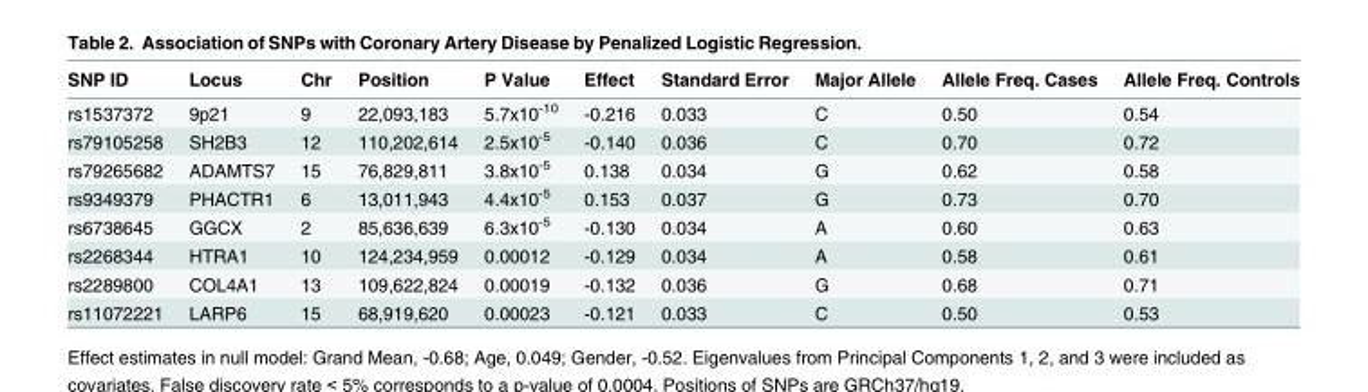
<table><thead><tr><td>SNP ID</td><td>Locus</td><td>Chr</td><td>Position</td><td>P Value</td><td>Effect</td><td>Standard Error</td><td>Major Allele</td><td>Allele Freq. Cases</td><td>Allele Freq. Controls</td></tr></thead><tbody><tr><td>rs1537372</td><td>9p21</td><td>9</td><td>22,093,183</td><td>5.7x10<sup>-10</sup></td><td>-0.216</td><td>0.033</td><td>C</td><td>0.50</td><td>0.54</td></tr><tr><td>rs79105258</td><td>SH2B3</td><td>12</td><td>110,202,614</td><td>2.5x10<sup>-5</sup></td><td>-0.140</td><td>0.036</td><td>C</td><td>0.70</td><td>0.72</td></tr><tr><td>rs79265682</td><td>ADAMTS7</td><td>15</td><td>76,829,811</td><td>3.8x10<sup>-5</sup></td><td>0.138</td><td>0.034</td><td>G</td><td>0.62</td><td>0.58</td></tr><tr><td>rs9349379</td><td>PHACTR1</td><td>6</td><td>13,011,943</td><td>4.4x10<sup>-5</sup></td><td>0.153</td><td>0.037</td><td>G</td><td>0.73</td><td>0.70</td></tr><tr><td>rs6738645</td><td>GGCX</td><td>2</td><td>85,636,639</td><td>6.3x10<sup>-5</sup></td><td>-0.130</td><td>0.034</td><td>A</td><td>0.60</td><td>0.63</td></tr><tr><td>rs2268344</td><td>HTRA1</td><td>10</td><td>124,234,959</td><td>0.00012</td><td>-0.129</td><td>0.034</td><td>A</td><td>0.58</td><td>0.61</td></tr><tr><td>rs2289800</td><td>COL4A1</td><td>13</td><td>109,622,824</td><td>0.00019</td><td>-0.132</td><td>0.036</td><td>G</td><td>0.68</td><td>0.71</td></tr><tr><td>rs11072221</td><td>LARP6</td><td>15</td><td>68,919,620</td><td>0.00023</td><td>-0.121</td><td>0.033</td><td>C</td><td>0.50</td><td>0.53</td></tr></tbody></table>